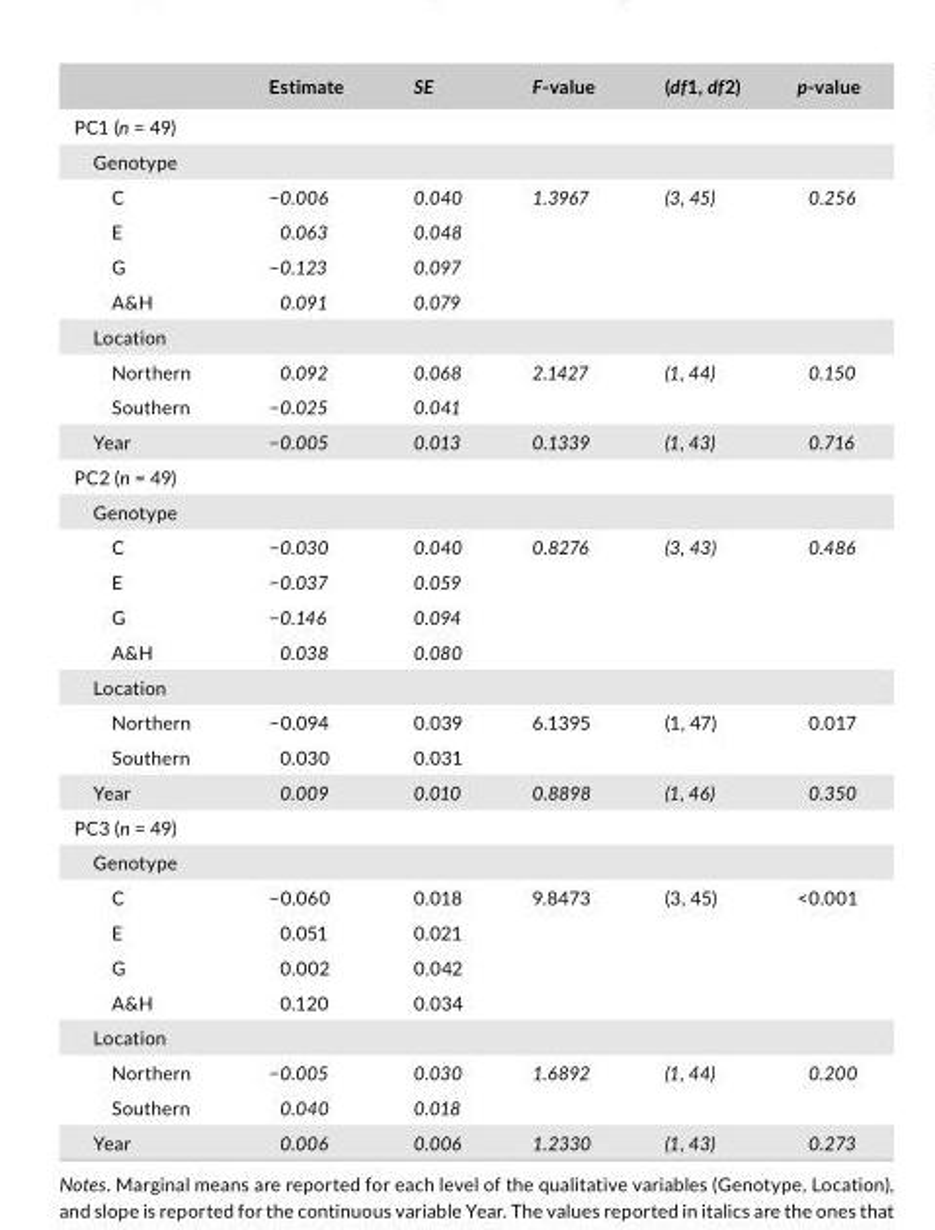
<table><thead><tr><td></td><td>Estimate</td><td>SE</td><td>F- value</td><td>(df1, df2)</td><td>p- value</td></tr></thead><tbody><tr><td colspan="6">PC1 (n = 49)</td></tr><tr><td colspan="6">Genotype</td></tr><tr><td>C</td><td>−0.006</td><td>0.040</td><td rowspan="4">1.3967</td><td rowspan="4">(3, 45)</td><td rowspan="4">0.256</td></tr><tr><td>E</td><td>0.063</td><td>0.048</td></tr><tr><td>G</td><td>−0.123</td><td>0.097</td></tr><tr><td>A&amp;H</td><td>0.091</td><td>0.079</td></tr><tr><td colspan="6">Location</td></tr><tr><td>Northern</td><td>0.092</td><td>0.068</td><td rowspan="2">2.1427</td><td rowspan="2">(1, 44)</td><td rowspan="2">0.150</td></tr><tr><td>Southern</td><td>−0.025</td><td>0.041</td></tr><tr><td>Year</td><td>−0.005</td><td>0.013</td><td>0.1339</td><td>(1, 43)</td><td>0.716</td></tr><tr><td colspan="6">PC2 (n = 49)</td></tr><tr><td colspan="6">Genotype</td></tr><tr><td>C</td><td>−0.030</td><td>0.040</td><td rowspan="4">0.8276</td><td rowspan="4">(3, 43)</td><td rowspan="4">0.486</td></tr><tr><td>E</td><td>−0.037</td><td>0.059</td></tr><tr><td>G</td><td>−0.146</td><td>0.094</td></tr><tr><td>A&amp;H</td><td>0.038</td><td>0.080</td></tr><tr><td colspan="6">Location</td></tr><tr><td>Northern</td><td>−0.094</td><td>0.039</td><td rowspan="2">6.1395</td><td rowspan="2">(1, 47)</td><td rowspan="2">0.017</td></tr><tr><td>Southern</td><td>0.030</td><td>0.031</td></tr><tr><td>Year</td><td>0.009</td><td>0.010</td><td>0.8898</td><td>(1, 46)</td><td>0.350</td></tr><tr><td colspan="6">PC3 (n = 49)</td></tr><tr><td colspan="6">Genotype</td></tr><tr><td>C</td><td>−0.060</td><td>0.018</td><td rowspan="4">9.8473</td><td rowspan="4">(3, 45)</td><td rowspan="4">&lt;0.001</td></tr><tr><td>E</td><td>0.051</td><td>0.021</td></tr><tr><td>G</td><td>0.002</td><td>0.042</td></tr><tr><td>A&amp;H</td><td>0.120</td><td>0.034</td></tr><tr><td colspan="6">Location</td></tr><tr><td>Northern</td><td>−0.005</td><td>0.030</td><td rowspan="2">1.6892</td><td rowspan="2">(1, 44)</td><td rowspan="2">0.200</td></tr><tr><td>Southern</td><td>0.040</td><td>0.018</td></tr><tr><td>Year</td><td>0.006</td><td>0.006</td><td>1.2330</td><td>(1, 43)</td><td>0.273</td></tr></tbody></table>